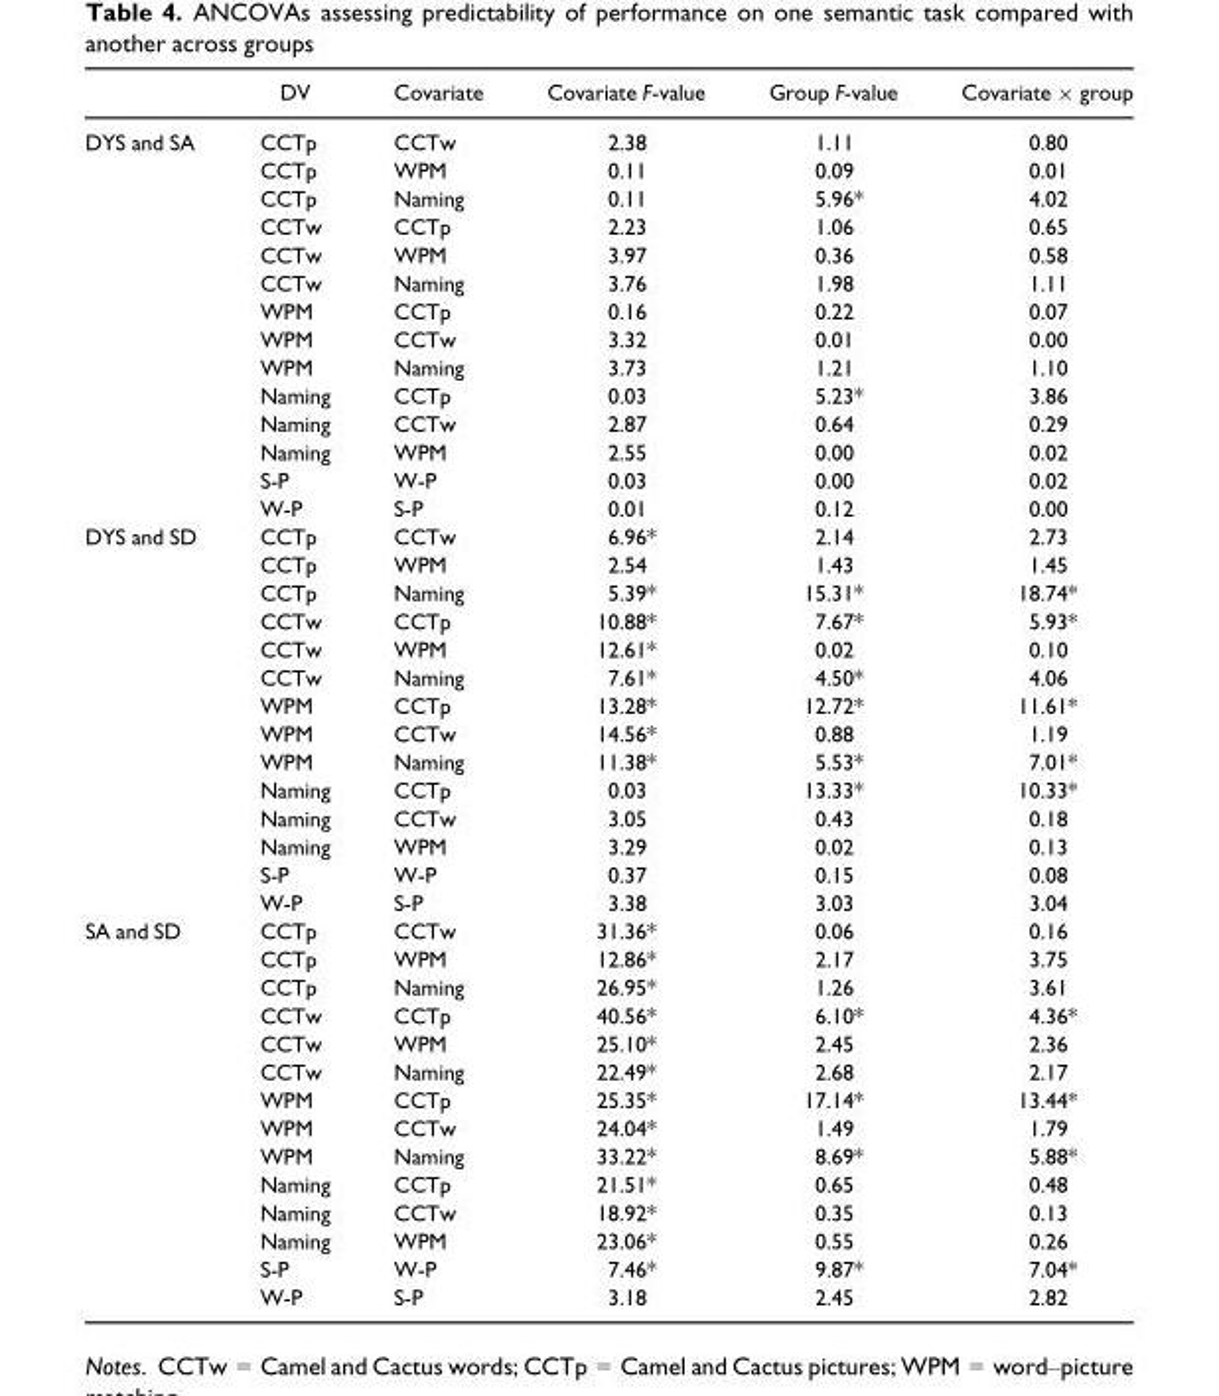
<table><thead><tr><td></td><td>DV</td><td>Covariate</td><td>Covariate F-value</td><td>Group F-value</td><td>Covariate × group</td></tr></thead><tbody><tr><td rowspan="14">DYS and SA</td><td>CCTp</td><td>CCTw</td><td>2.38</td><td>1.11</td><td>0.80</td></tr><tr><td>CCTp</td><td>WPM</td><td>0.11</td><td>0.09</td><td>0.01</td></tr><tr><td>CCTp</td><td>Naming</td><td>0.11</td><td>5.96*</td><td>4.02</td></tr><tr><td>CCTw</td><td>CCTp</td><td>2.23</td><td>1.06</td><td>0.65</td></tr><tr><td>CCTw</td><td>WPM</td><td>3.97</td><td>0.36</td><td>0.58</td></tr><tr><td>CCTw</td><td>Naming</td><td>3.76</td><td>1.98</td><td>1.11</td></tr><tr><td>WPM</td><td>CCTp</td><td>0.16</td><td>0.22</td><td>0.07</td></tr><tr><td>WPM</td><td>CCTw</td><td>3.32</td><td>0.01</td><td>0.00</td></tr><tr><td>WPM</td><td>Naming</td><td>3.73</td><td>1.21</td><td>1.10</td></tr><tr><td>Naming</td><td>CCTp</td><td>0.03</td><td>5.23*</td><td>3.86</td></tr><tr><td>Naming</td><td>CCTw</td><td>2.87</td><td>0.64</td><td>0.29</td></tr><tr><td>Naming</td><td>WPM</td><td>2.55</td><td>0.00</td><td>0.02</td></tr><tr><td>S-P</td><td>W-P</td><td>0.03</td><td>0.00</td><td>0.02</td></tr><tr><td>W-P</td><td>S-P</td><td>0.01</td><td>0.12</td><td>0.00</td></tr><tr><td rowspan="14">DYS and SD</td><td>CCTp</td><td>CCTw</td><td>6.96*</td><td>2.14</td><td>2.73</td></tr><tr><td>CCTp</td><td>WPM</td><td>2.54</td><td>1.43</td><td>1.45</td></tr><tr><td>CCTp</td><td>Naming</td><td>5.39*</td><td>15.31*</td><td>18.74*</td></tr><tr><td>CCTw</td><td>CCTp</td><td>10.88*</td><td>7.67*</td><td>5.93*</td></tr><tr><td>CCTw</td><td>WPM</td><td>12.61*</td><td>0.02</td><td>0.10</td></tr><tr><td>CCTw</td><td>Naming</td><td>7.61*</td><td>4.50*</td><td>4.06</td></tr><tr><td>WPM</td><td>CCTp</td><td>13.28*</td><td>12.72*</td><td>11.61*</td></tr><tr><td>WPM</td><td>CCTw</td><td>14.56*</td><td>0.88</td><td>1.19</td></tr><tr><td>WPM</td><td>Naming</td><td>11.38*</td><td>5.53*</td><td>7.01*</td></tr><tr><td>Naming</td><td>CCTp</td><td>0.03</td><td>13.33*</td><td>10.33*</td></tr><tr><td>Naming</td><td>CCTw</td><td>3.05</td><td>0.43</td><td>0.18</td></tr><tr><td>Naming</td><td>WPM</td><td>3.29</td><td>0.02</td><td>0.13</td></tr><tr><td>S-P</td><td>W-P</td><td>0.37</td><td>0.15</td><td>0.08</td></tr><tr><td>W-P</td><td>S-P</td><td>3.38</td><td>3.03</td><td>3.04</td></tr><tr><td rowspan="14">SA and SD</td><td>CCTp</td><td>CCTw</td><td>31.36*</td><td>0.06</td><td>0.16</td></tr><tr><td>CCTp</td><td>WPM</td><td>12.86*</td><td>2.17</td><td>3.75</td></tr><tr><td>CCTp</td><td>Naming</td><td>26.95*</td><td>1.26</td><td>3.61</td></tr><tr><td>CCTw</td><td>CCTp</td><td>40.56*</td><td>6.10*</td><td>4.36*</td></tr><tr><td>CCTw</td><td>WPM</td><td>25.10*</td><td>2.45</td><td>2.36</td></tr><tr><td>CCTw</td><td>Naming</td><td>22.49*</td><td>2.68</td><td>2.17</td></tr><tr><td>WPM</td><td>CCTp</td><td>25.35*</td><td>17.14*</td><td>13.44*</td></tr><tr><td>WPM</td><td>CCTw</td><td>24.04*</td><td>1.49</td><td>1.79</td></tr><tr><td>WPM</td><td>Naming</td><td>33.22*</td><td>8.69*</td><td>5.88*</td></tr><tr><td>Naming</td><td>CCTp</td><td>21.51*</td><td>0.65</td><td>0.48</td></tr><tr><td>Naming</td><td>CCTw</td><td>18.92*</td><td>0.35</td><td>0.13</td></tr><tr><td>Naming</td><td>WPM</td><td>23.06*</td><td>0.55</td><td>0.26</td></tr><tr><td>S-P</td><td>W-P</td><td>7.46*</td><td>9.87*</td><td>7.04*</td></tr><tr><td>W-P</td><td>S-P</td><td>3.18</td><td>2.45</td><td>2.82</td></tr></tbody></table>